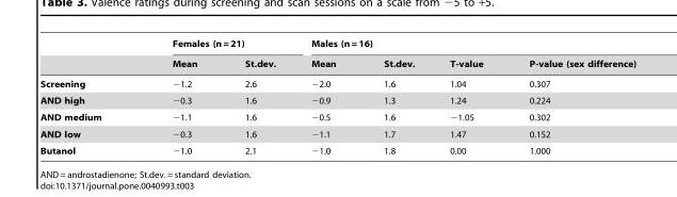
<table><thead><tr><td rowspan="2"></td><td colspan="2">Females (n = 21)</td><td colspan="4">Males (n = 16)</td></tr><tr><td>Mean</td><td>St.dev.</td><td>Mean</td><td>St.dev.</td><td>T-value</td><td>P-value (sex difference)</td></tr></thead><tbody><tr><td>Screening</td><td>−1.2</td><td>2.6</td><td>−2.0</td><td>1.6</td><td>1.04</td><td>0.307</td></tr><tr><td>AND high</td><td>−0.3</td><td>1.6</td><td>−0.9</td><td>1.3</td><td>1.24</td><td>0.224</td></tr><tr><td>AND medium</td><td>−1.1</td><td>1.6</td><td>−0.5</td><td>1.6</td><td>−1.05</td><td>0.302</td></tr><tr><td>AND low</td><td>−0.3</td><td>1.6</td><td>−1.1</td><td>1.7</td><td>1.47</td><td>0.152</td></tr><tr><td>Butanol</td><td>−1.0</td><td>2.1</td><td>−1.0</td><td>1.8</td><td>0.00</td><td>1.000</td></tr></tbody></table>